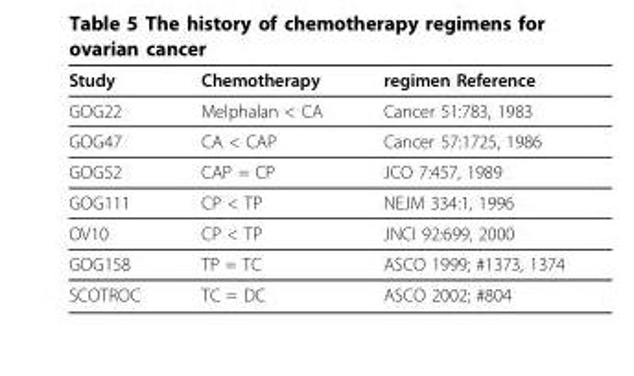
<table><thead><tr><td>Study</td><td>Chemotherapy</td><td>regimen Reference</td></tr></thead><tbody><tr><td>GOG22</td><td>Melphalan &lt; CA</td><td>Cancer 51:783, 1983</td></tr><tr><td>GOG47</td><td>CA &lt; CAP</td><td>Cancer 57:1725, 1986</td></tr><tr><td>GOG52</td><td>CAP = CP</td><td>JCO 7:457, 1989</td></tr><tr><td>GOG111</td><td>CP &lt; TP</td><td>NEJM 334:1, 1996</td></tr><tr><td>OV10</td><td>CP &lt; TP</td><td>JNCI 92:699, 2000</td></tr><tr><td>GOG158</td><td>TP = TC</td><td>ASCO 1999; #1373, 1374</td></tr><tr><td>SCOTROC</td><td>TC = DC</td><td>ASCO 2002; #804</td></tr></tbody></table>